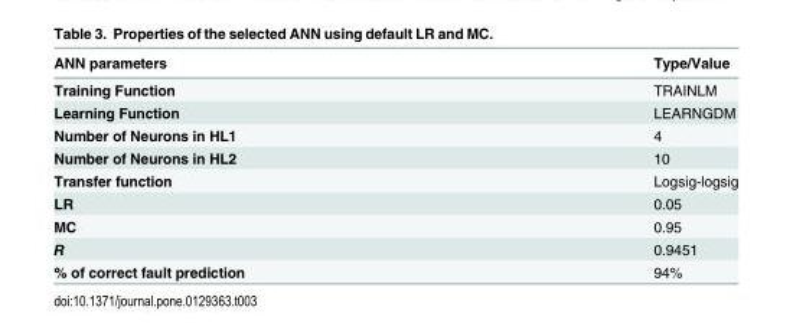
<table><thead><tr><td>ANN parameters</td><td>Type/Value</td></tr></thead><tbody><tr><td>Training Function</td><td>TRAINLM</td></tr><tr><td>Learning Function</td><td>LEARNGDM</td></tr><tr><td>Number of Neurons in HL1</td><td>4</td></tr><tr><td>Number of Neurons in HL2</td><td>10</td></tr><tr><td>Transfer function</td><td>Logsig-logsig</td></tr><tr><td>LR</td><td>0.05</td></tr><tr><td>MC</td><td>0.95</td></tr><tr><td>R</td><td>0.9451</td></tr><tr><td>% of correct fault prediction</td><td>94%</td></tr></tbody></table>